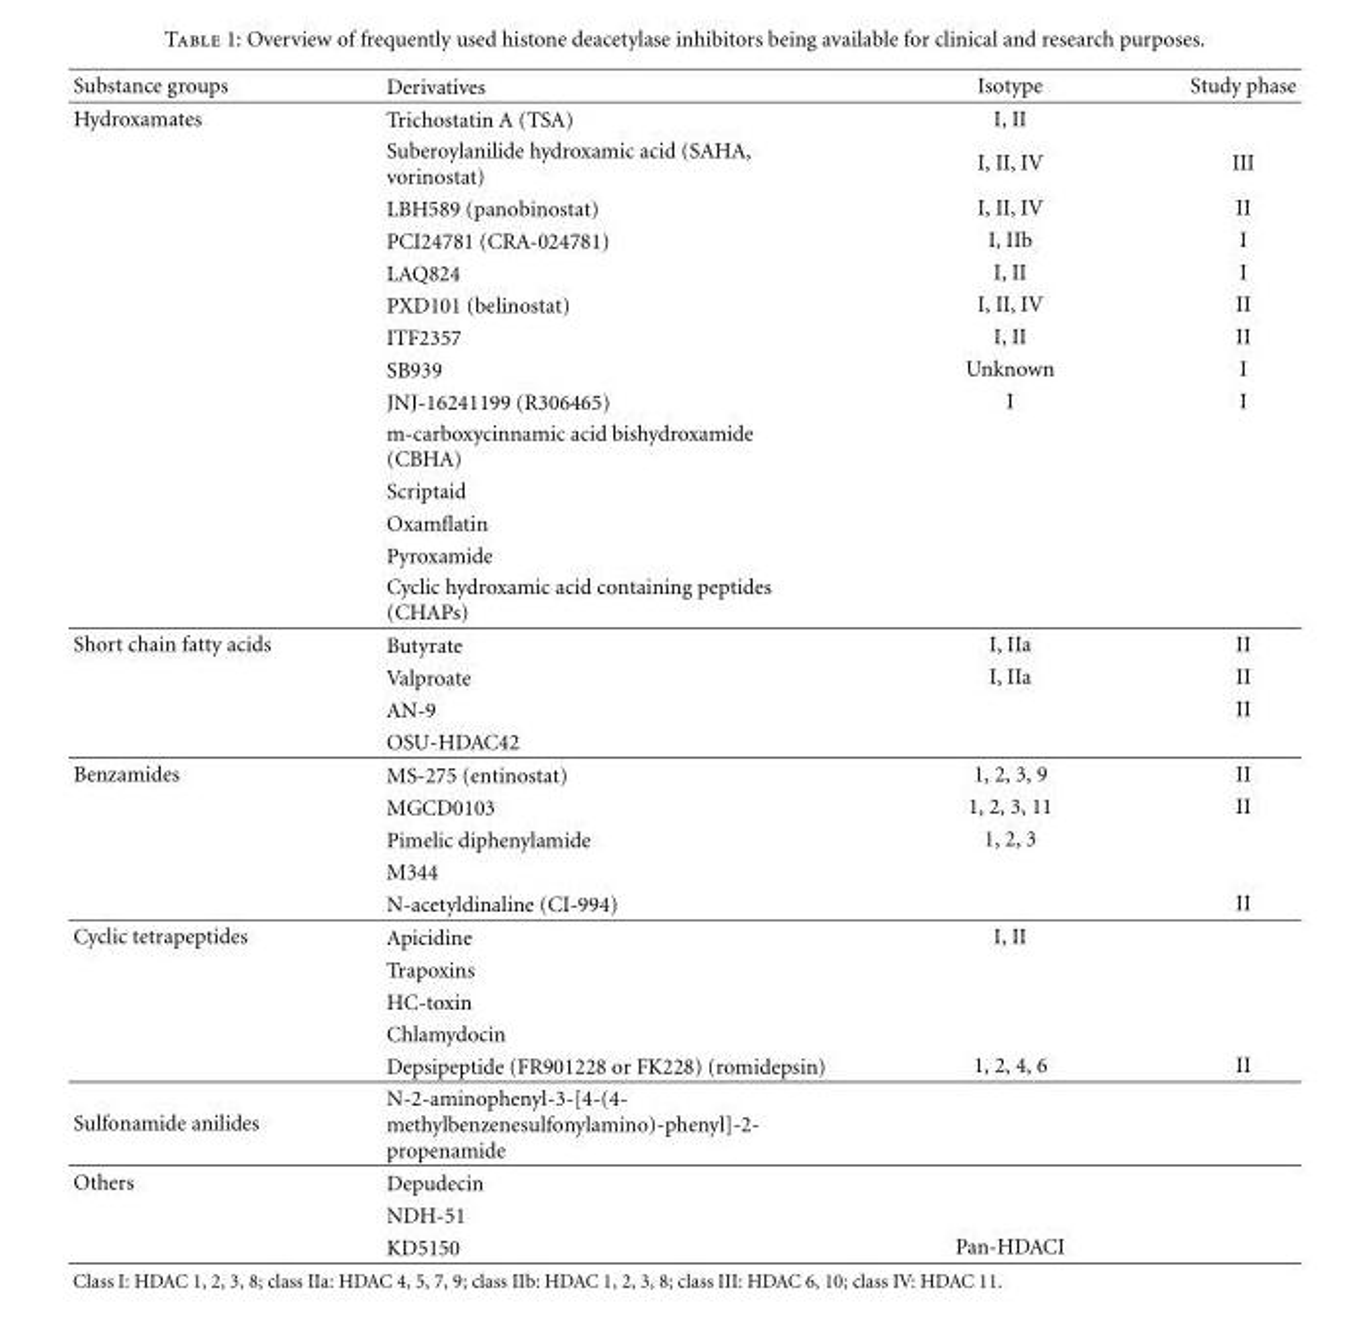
<table><thead><tr><td>Substance groups</td><td>Derivatives</td><td>Isotype</td><td>Study phase</td></tr></thead><tbody><tr><td rowspan="14">Hydroxamates</td><td>Trichostatin A (TSA)</td><td>I, II</td><td></td></tr><tr><td>Suberoylanilide hydroxamic acid (SAHA, vorinostat)</td><td>I, II, IV</td><td>III</td></tr><tr><td>LBH589 (panobinostat)</td><td>I, II, IV</td><td>II</td></tr><tr><td>PCI24781 (CRA-024781)</td><td>I, IIb</td><td>I</td></tr><tr><td>LAQ824</td><td>I, II</td><td>I</td></tr><tr><td>PXD101 (belinostat)</td><td>I, II, IV</td><td>II</td></tr><tr><td>ITF2357</td><td>I, II</td><td>II</td></tr><tr><td>SB939</td><td>Unknown</td><td>I</td></tr><tr><td>JNJ-16241199 (R306465)</td><td>I</td><td>I</td></tr><tr><td>m-carboxycinnamic acid bishydroxamide (CBHA)</td><td></td><td></td></tr><tr><td>Scriptaid</td><td></td><td></td></tr><tr><td>Oxamflatin</td><td></td><td></td></tr><tr><td>Pyroxamide</td><td></td><td></td></tr><tr><td>Cyclic hydroxamic acid containing peptides (CHAPs)</td><td></td><td></td></tr><tr><td rowspan="4">Short chain fatty acids</td><td>Butyrate</td><td>I, IIa</td><td>II</td></tr><tr><td>Valproate</td><td>I, IIa</td><td>II</td></tr><tr><td>AN-9</td><td></td><td>II</td></tr><tr><td>OSU-HDAC42</td><td></td><td></td></tr><tr><td rowspan="5">Benzamides</td><td>MS-275 (entinostat)</td><td>1, 2, 3, 9</td><td>II</td></tr><tr><td>MGCD0103</td><td>1, 2, 3, 11</td><td>II</td></tr><tr><td>Pimelic diphenylamide</td><td>1, 2, 3</td><td></td></tr><tr><td>M344</td><td></td><td></td></tr><tr><td>N-acetyldinaline (CI-994)</td><td></td><td>II</td></tr><tr><td rowspan="5">Cyclic tetrapeptides</td><td>Apicidine</td><td>I, II</td><td></td></tr><tr><td>Trapoxins</td><td></td><td></td></tr><tr><td>HC-toxin</td><td></td><td></td></tr><tr><td>Chlamydocin</td><td></td><td></td></tr><tr><td>Depsipeptide (FR901228 or FK228) (romidepsin)</td><td>1, 2, 4, 6</td><td>II</td></tr><tr><td>Sulfonamide anilides</td><td>N-2-aminophenyl-3-[4-(4- methylbenzenesulfonylamino)-phenyl]-2- propenamide</td><td></td><td></td></tr><tr><td rowspan="3">Others</td><td>Depudecin</td><td></td><td></td></tr><tr><td>NDH-51</td><td></td><td></td></tr><tr><td>KD5150</td><td>Pan-HDACI</td><td></td></tr></tbody></table>